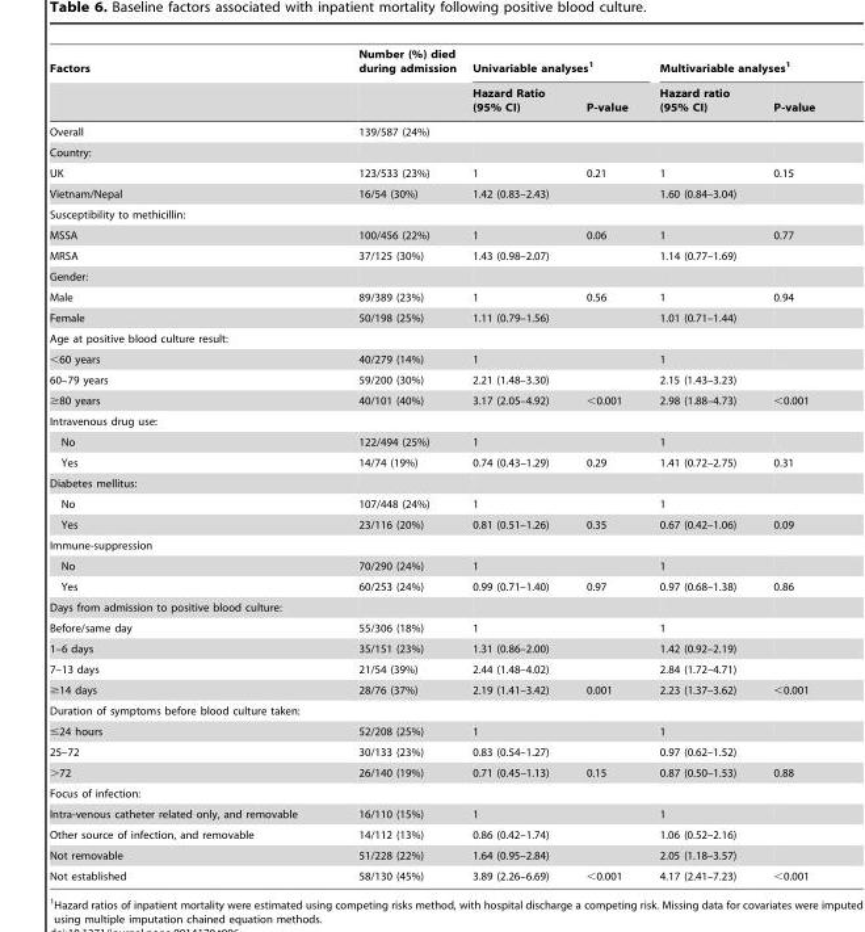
<table><thead><tr><td rowspan="2">Factors</td><td rowspan="2">Number (%) died during admission</td><td colspan="2">Univariable analyses<sup>1</sup></td><td colspan="2">Multivariable analyses<sup>1</sup></td></tr><tr><td>Hazard Ratio (95% CI)</td><td>P-value</td><td>Hazard ratio (95% CI)</td><td>P-value</td></tr></thead><tbody><tr><td>Overall</td><td>139/587 (24%)</td><td></td><td></td><td></td><td></td></tr><tr><td colspan="6">Country:</td></tr><tr><td>UK</td><td>123/533 (23%)</td><td>1</td><td>0.21</td><td>1</td><td>0.15</td></tr><tr><td>Vietnam/Nepal</td><td>16/54 (30%)</td><td>1.42 (0.83–2.43)</td><td></td><td>1.60 (0.84–3.04)</td><td></td></tr><tr><td colspan="6">Susceptibility to methicillin:</td></tr><tr><td>MSSA</td><td>100/456 (22%)</td><td>1</td><td>0.06</td><td>1</td><td>0.77</td></tr><tr><td>MRSA</td><td>37/125 (30%)</td><td>1.43 (0.98–2.07)</td><td></td><td>1.14 (0.77–1.69)</td><td></td></tr><tr><td colspan="6">Gender:</td></tr><tr><td>Male</td><td>89/389 (23%)</td><td>1</td><td>0.56</td><td>1</td><td>0.94</td></tr><tr><td>Female</td><td>50/198 (25%)</td><td>1.11 (0.79–1.56)</td><td></td><td>1.01 (0.71–1.44)</td><td></td></tr><tr><td colspan="6">Age at positive blood culture result:</td></tr><tr><td>&lt;60 years</td><td>40/279 (14%)</td><td>1</td><td></td><td>1</td><td></td></tr><tr><td>60–79 years</td><td>59/200 (30%)</td><td>2.21 (1.48–3.30)</td><td></td><td>2.15 (1.43–3.23)</td><td></td></tr><tr><td>≥80 years</td><td>40/101 (40%)</td><td>3.17 (2.05–4.92)</td><td>&lt;0.001</td><td>2.98 (1.88–4.73)</td><td>&lt;0.001</td></tr><tr><td colspan="6">Intravenous drug use:</td></tr><tr><td>No</td><td>122/494 (25%)</td><td>1</td><td></td><td>1</td><td></td></tr><tr><td>Yes</td><td>14/74 (19%)</td><td>0.74 (0.43–1.29)</td><td>0.29</td><td>1.41 (0.72–2.75)</td><td>0.31</td></tr><tr><td colspan="6">Diabetes mellitus:</td></tr><tr><td>No</td><td>107/448 (24%)</td><td>1</td><td></td><td>1</td><td></td></tr><tr><td>Yes</td><td>23/116 (20%)</td><td>0.81 (0.51–1.26)</td><td>0.35</td><td>0.67 (0.42–1.06)</td><td>0.09</td></tr><tr><td colspan="6">Immune-suppression</td></tr><tr><td>No</td><td>70/290 (24%)</td><td>1</td><td></td><td>1</td><td></td></tr><tr><td>Yes</td><td>60/253 (24%)</td><td>0.99 (0.71–1.40)</td><td>0.97</td><td>0.97 (0.68–1.38)</td><td>0.86</td></tr><tr><td colspan="6">Days from admission to positive blood culture:</td></tr><tr><td>Before/same day</td><td>55/306 (18%)</td><td>1</td><td></td><td>1</td><td></td></tr><tr><td>1–6 days</td><td>35/151 (23%)</td><td>1.31 (0.86–2.00)</td><td></td><td>1.42 (0.92–2.19)</td><td></td></tr><tr><td>7–13 days</td><td>21/54 (39%)</td><td>2.44 (1.48–4.02)</td><td></td><td>2.84 (1.72–4.71)</td><td></td></tr><tr><td>≥14 days</td><td>28/76 (37%)</td><td>2.19 (1.41–3.42)</td><td>0.001</td><td>2.23 (1.37–3.62)</td><td>&lt;0.001</td></tr><tr><td colspan="6">Duration of symptoms before blood culture taken:</td></tr><tr><td>≤24 hours</td><td>52/208 (25%)</td><td>1</td><td></td><td>1</td><td></td></tr><tr><td>25–72</td><td>30/133 (23%)</td><td>0.83 (0.54–1.27)</td><td></td><td>0.97 (0.62–1.52)</td><td></td></tr><tr><td>&gt;72</td><td>26/140 (19%)</td><td>0.71 (0.45–1.13)</td><td>0.15</td><td>0.87 (0.50–1.53)</td><td>0.88</td></tr><tr><td colspan="6">Focus of infection:</td></tr><tr><td>Intra-venous catheter related only, and removable</td><td>16/110 (15%)</td><td>1</td><td></td><td>1</td><td></td></tr><tr><td>Other source of infection, and removable</td><td>14/112 (13%)</td><td>0.86 (0.42–1.74)</td><td></td><td>1.06 (0.52–2.16)</td><td></td></tr><tr><td>Not removable</td><td>51/228 (22%)</td><td>1.64 (0.95–2.84)</td><td></td><td>2.05 (1.18–3.57)</td><td></td></tr><tr><td>Not established</td><td>58/130 (45%)</td><td>3.89 (2.26–6.69)</td><td>&lt;0.001</td><td>4.17 (2.41–7.23)</td><td>&lt;0.001</td></tr></tbody></table>